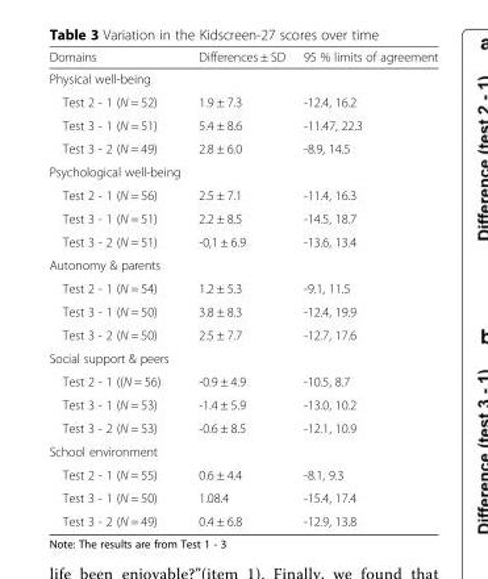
<table><thead><tr><td>Domains</td><td>Differences ± SD</td><td>95 % limits of agreement</td></tr></thead><tbody><tr><td colspan="3">Physical well-being</td></tr><tr><td>Test 2 - 1 (N = 52)</td><td>1.9 ± 7.3</td><td>-12.4, 16.2</td></tr><tr><td>Test 3 - 1 (N = 51)</td><td>5.4 ± 8.6</td><td>-11.47, 22.3</td></tr><tr><td>Test 3 - 2 (N = 49)</td><td>2.8 ± 6.0</td><td>-8.9, 14.5</td></tr><tr><td colspan="3">Psychological well-being</td></tr><tr><td>Test 2 - 1 (N = 56)</td><td>2.5 ± 7.1</td><td>-11.4, 16.3</td></tr><tr><td>Test 3 - 1 (N = 51)</td><td>2.2 ± 8.5</td><td>-14.5, 18.7</td></tr><tr><td>Test 3 - 2 (N = 51)</td><td>-0,1 ± 6.9</td><td>-13.6, 13.4</td></tr><tr><td colspan="3">Autonomy &amp; parents</td></tr><tr><td>Test 2 - 1 (N = 54)</td><td>1.2 ± 5.3</td><td>-9.1, 11.5</td></tr><tr><td>Test 3 - 1 (N = 50)</td><td>3.8 ± 8.3</td><td>-12.4, 19.9</td></tr><tr><td>Test 3 - 2 (N = 50)</td><td>2.5 ± 7.7</td><td>-12.7, 17.6</td></tr><tr><td colspan="3">Social support &amp; peers</td></tr><tr><td>Test 2 - 1 ((N = 56)</td><td>-0.9 ± 4.9</td><td>-10.5, 8.7</td></tr><tr><td>Test 3 - 1 (N = 53)</td><td>-1.4 ± 5.9</td><td>-13.0, 10.2</td></tr><tr><td>Test 3 - 2 (N = 53)</td><td>-0.6 ± 8.5</td><td>-12.1, 10.9</td></tr><tr><td colspan="3">School environment</td></tr><tr><td>Test 2 - 1 (N = 55)</td><td>0.6 ± 4.4</td><td>-8.1, 9.3</td></tr><tr><td>Test 3 - 1 (N = 50)</td><td>1.08.4</td><td>-15.4, 17.4</td></tr><tr><td>Test 3 - 2 (N = 49)</td><td>0.4 ± 6.8</td><td>-12.9, 13.8</td></tr></tbody></table>